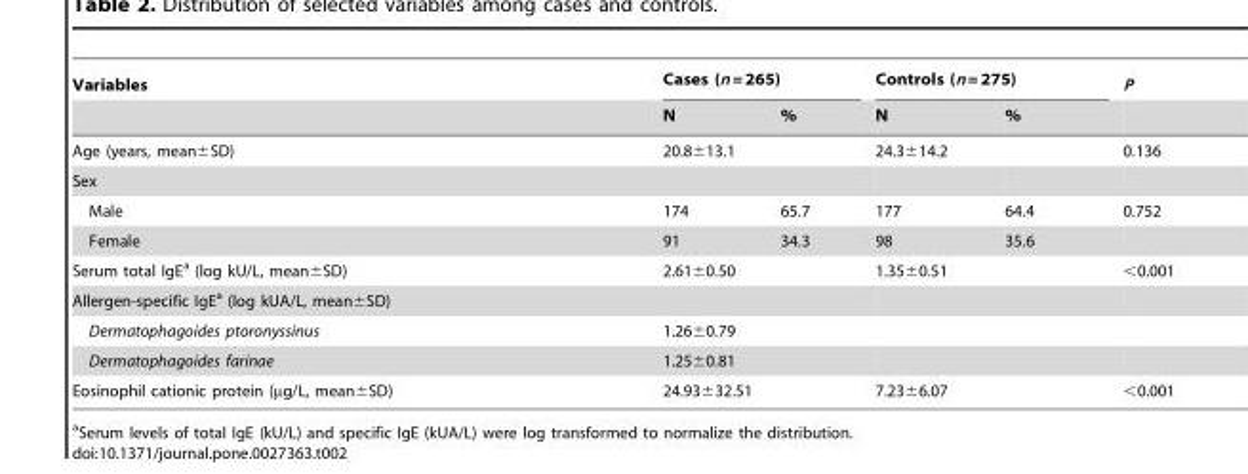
<table><thead><tr><td rowspan="2">Variables</td><td colspan="2">Cases (n = 265)</td><td colspan="2">Controls (n = 275)</td><td rowspan="2">P</td></tr><tr><td>N</td><td>%</td><td>N</td><td>%</td></tr></thead><tbody><tr><td>Age (years, mean±SD)</td><td colspan="2">20.8±13.1</td><td colspan="2">24.3±14.2</td><td>0.136</td></tr><tr><td colspan="6">Sex</td></tr><tr><td>Male</td><td>174</td><td>65.7</td><td>177</td><td>64.4</td><td>0.752</td></tr><tr><td>Female</td><td>91</td><td>34.3</td><td>98</td><td>35.6</td><td></td></tr><tr><td>Serum total IgE<sup>a</sup> (log kU/L, mean±SD)</td><td colspan="2">2.61±0.50</td><td colspan="2">1.35±0.51</td><td>&lt;0.001</td></tr><tr><td colspan="6">Allergen-specific IgE<sup>a</sup> (log kUA/L, mean±SD)</td></tr><tr><td>Dermatophagoides ptoronyssinus</td><td colspan="2">1.26±0.79</td><td colspan="2"></td><td></td></tr><tr><td>Dermatophagoides farinae</td><td colspan="2">1.25±0.81</td><td colspan="2"></td><td></td></tr><tr><td>Eosinophil cationic protein (µg/L, mean±SD)</td><td colspan="2">24.93±32.51</td><td colspan="2">7.23±6.07</td><td>&lt;0.001</td></tr></tbody></table>